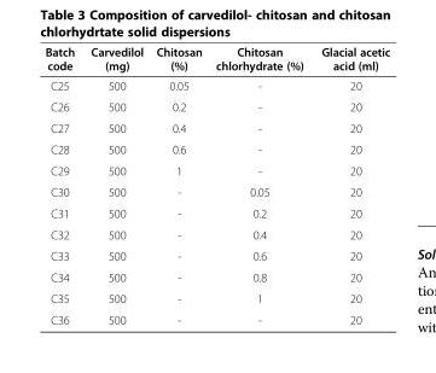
<table><thead><tr><td>Batch code</td><td>Carvedilol (mg)</td><td>Chitosan (%)</td><td>Chitosan chlorhydrate (%)</td><td>Glacial acetic acid (ml)</td></tr></thead><tbody><tr><td>C25</td><td>500</td><td>0.05</td><td>-</td><td>20</td></tr><tr><td>C26</td><td>500</td><td>0.2</td><td>-</td><td>20</td></tr><tr><td>C27</td><td>500</td><td>0.4</td><td>-</td><td>20</td></tr><tr><td>C28</td><td>500</td><td>0.6</td><td>-</td><td>20</td></tr><tr><td>C29</td><td>500</td><td>1</td><td>-</td><td>20</td></tr><tr><td>C30</td><td>500</td><td>-</td><td>0.05</td><td>20</td></tr><tr><td>C31</td><td>500</td><td>-</td><td>0.2</td><td>20</td></tr><tr><td>C32</td><td>500</td><td>-</td><td>0.4</td><td>20</td></tr><tr><td>C33</td><td>500</td><td>-</td><td>0.6</td><td>20</td></tr><tr><td>C34</td><td>500</td><td>-</td><td>0.8</td><td>20</td></tr><tr><td>C35</td><td>500</td><td>-</td><td>1</td><td>20</td></tr><tr><td>C36</td><td>500</td><td>-</td><td>-</td><td>20</td></tr></tbody></table>